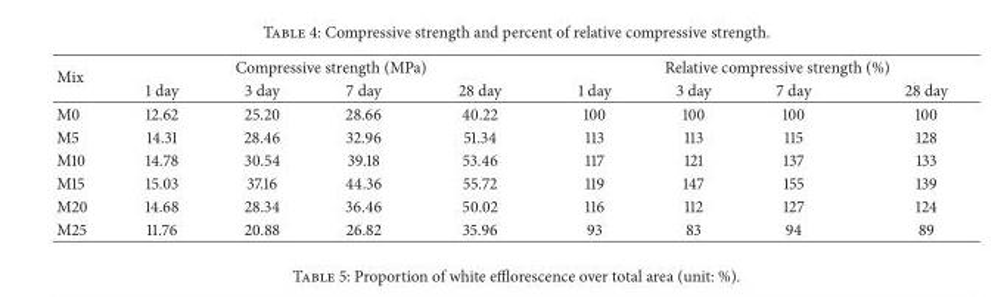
<table><thead><tr><td rowspan="2">Mix</td><td colspan="4">Compressive strength (MPa)</td><td colspan="4">Relative compressive strength (%)</td></tr><tr><td>1 day</td><td>3 day</td><td>7 day</td><td>28 day</td><td>1 day</td><td>3 day</td><td>7 day</td><td>28 day</td></tr></thead><tbody><tr><td>M0</td><td>12.62</td><td>25.20</td><td>28.66</td><td>40.22</td><td>100</td><td>100</td><td>100</td><td>100</td></tr><tr><td>M5</td><td>14.31</td><td>28.46</td><td>32.96</td><td>51.34</td><td>113</td><td>113</td><td>115</td><td>128</td></tr><tr><td>M10</td><td>14.78</td><td>30.54</td><td>39.18</td><td>53.46</td><td>117</td><td>121</td><td>137</td><td>133</td></tr><tr><td>M15</td><td>15.03</td><td>37.16</td><td>44.36</td><td>55.72</td><td>119</td><td>147</td><td>155</td><td>139</td></tr><tr><td>M20</td><td>14.68</td><td>28.34</td><td>36.46</td><td>50.02</td><td>116</td><td>112</td><td>127</td><td>124</td></tr><tr><td>M25</td><td>11.76</td><td>20.88</td><td>26.82</td><td>35.96</td><td>93</td><td>83</td><td>94</td><td>89</td></tr></tbody></table>